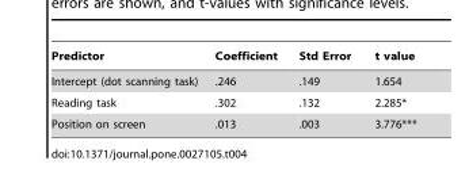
<table><thead><tr><td>Predictor</td><td>Coefficient</td><td>Std Error</td><td>t value</td></tr></thead><tbody><tr><td>Intercept (dot scanning task)</td><td>.246</td><td>.149</td><td>1.654</td></tr><tr><td>Reading task</td><td>.302</td><td>.132</td><td>2.285*</td></tr><tr><td>Position on screen</td><td>.013</td><td>.003</td><td>3.776***</td></tr></tbody></table>